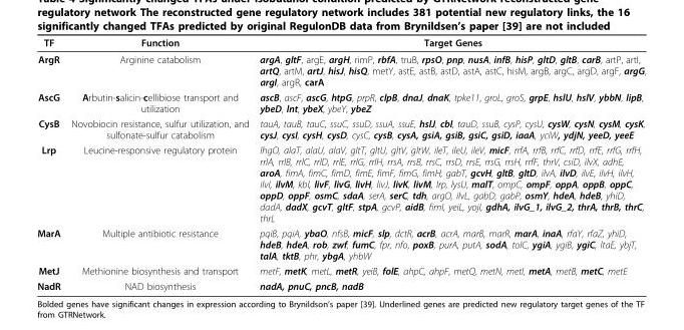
<table><thead><tr><td>TF</td><td>Function</td><td>Target Genes</td></tr></thead><tbody><tr><td>ArgR</td><td>Arginine catabolism</td><td>argA, gltF, argE, argH, rimP, rbfA, truB, rpsO, pnp, nusA, infB, hisP, gltD, gltB, carB, artP, artI, artQ, artM, artJ, hisJ, hisQ, metY, astE, astB, astD, astA, astC, hisM, argB, argC, argD, argF, argG, argI, argR, carA</td></tr><tr><td>AscG</td><td>Arbutin-salicin-cellibiose transport and utilization</td><td>ascB, ascF, ascG, htpG, prpR, clpB, dnaJ, dnaK, tpke11, groL, groS, grpE, hslU, hslV, ybbN, lipB, ybeD, lnt, ybeX, ybeY, ybeZ</td></tr><tr><td>CysB</td><td>Novobiocin resistance, sulfur utilization, and sulfonate-sulfur catabolism</td><td>tauA, tauB, tauC, ssuC, ssuD, ssuA, ssuE, hslJ, cbl, tauD, ssuB, cysP, cysU, cysW, cysN, cysM, cysK, cysJ, cysI, cysH, cysD, cysC, cysB, cysA, gsiA, gsiB, gsiC, gsiD, iaaA, yciW, ydjN, yeeD, yeeE</td></tr><tr><td>Lrp</td><td>Leucine-responsive regulatory protein</td><td>lhgO, alaT, alaU, alaV, gltT, gltU, gltV, gltW, ileT, ileU, ileV, micF, rrfA, rrfB, rrfC, rrfD, rrfE, rrfG, rrfH, rrlA, rrlB, rrlC, rrlD, rrlE, rrlG, rrlH, rrsA, rrsB, rrsC, rrsD, rrsE, rrsG, rrsH, rrfF, thrV, csiD, ilvX, adhE, aroA, fimA, fimC, fimD, fimE, fimF, fimG, fimH, gabT, gcvH, gltB, gltD, ilvA, ilvD, ilvE, ilvH, ilvH, ilvI, ilvM, kbl, livF, livG, livH, livJ, livK, livM, lrp, lysU, malT, ompC, ompF, oppA, oppB, oppC, oppD, oppF, osmC, sdaA, serA, serC, tdh, argO, ilvL, gabD, gabP, osmY, hdeA, hdeB, yhiD, dadA, dadX, gcvT, gltF, stpA, gcvP, aidB, fimI, yeiL, yojI, gdhA, ilvG_1, ilvG_2, thrA, thrB, thrC, thrL</td></tr><tr><td>MarA</td><td>Multiple antibiotic resistance</td><td>pqiB, pqiA, ybaO, nfsB, micF, slp, dctR, acrB, acrA, marB, marR, marA, inaA, rfaY, rfaZ, yhiD, hdeB, hdeA, rob, zwf, fumC, fpr, nfo, poxB, purA, putA, sodA, tolC, ygiA, ygiB, ygiC, ltaE, ybjT, talA, tktB, phr, ybgA, yhbW</td></tr><tr><td>MetJ</td><td>Methionine biosynthesis and transport</td><td>metF, metK, metL, metR, yeiB, folE, ahpC, ahpF, metQ, metN, metI, metA, metB, metC, metE</td></tr><tr><td>NadR</td><td>NAD biosynthesis</td><td>nadA, pnuC, pncB, nadB</td></tr></tbody></table>